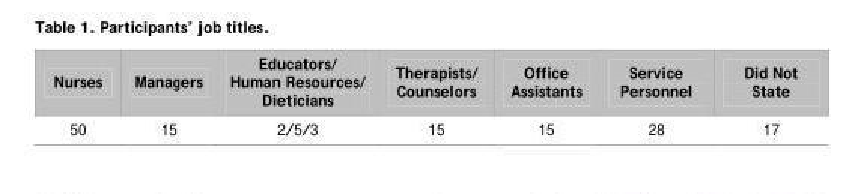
<table><thead><tr><td>Nurses</td><td>Managers</td><td>Educators/ Human Resources/ Dieticians</td><td>Therapists/ Counselors</td><td>Office Assistants</td><td>Service Personnel</td><td>Did Not State</td></tr></thead><tbody><tr><td>50</td><td>15</td><td>2/5/3</td><td>15</td><td>15</td><td>28</td><td>17</td></tr></tbody></table>